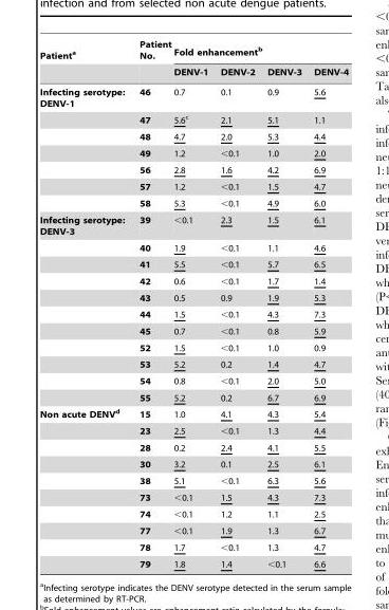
<table><thead><tr><td rowspan="2">Patient<sup>a</sup></td><td rowspan="2">Patient No.</td><td colspan="4">Fold enhancement<sup>b</sup></td></tr><tr><td>DENV-1</td><td>DENV-2</td><td>DENV-3</td><td>DENV-4</td></tr></thead><tbody><tr><td rowspan="7">Infecting serotype: DENV-1</td><td>46</td><td>0.7</td><td>0.1</td><td>0.9</td><td>5.6</td></tr><tr><td>47</td><td>5.6c</td><td>2.1</td><td>5.1</td><td>1.1</td></tr><tr><td>48</td><td>4.7</td><td>2.0</td><td>5.3</td><td>4.4</td></tr><tr><td>49</td><td>1.2</td><td>&lt;0.1</td><td>1.0</td><td>2.0</td></tr><tr><td>56</td><td>2.8</td><td>1.6</td><td>4.2</td><td>6.9</td></tr><tr><td>57</td><td>1.2</td><td>&lt;0.1</td><td>1.5</td><td>4.7</td></tr><tr><td>58</td><td>5.3</td><td>&lt;0.1</td><td>4.9</td><td>6.0</td></tr><tr><td rowspan="11">Infecting serotype: DENV-3</td><td>39</td><td>&lt;0.1</td><td>2.3</td><td>1.5</td><td>6.1</td></tr><tr><td>40</td><td>1.9</td><td>&lt;0.1</td><td>1.1</td><td>4.6</td></tr><tr><td>41</td><td>5.5</td><td>&lt;0.1</td><td>5.7</td><td>6.5</td></tr><tr><td>42</td><td>0.6</td><td>&lt;0.1</td><td>1.7</td><td>1.4</td></tr><tr><td>43</td><td>0.5</td><td>0.9</td><td>1.9</td><td>5.3</td></tr><tr><td>44</td><td>1.5</td><td>&lt;0.1</td><td>4.3</td><td>7.3</td></tr><tr><td>45</td><td>0.7</td><td>&lt;0.1</td><td>0.8</td><td>5.9</td></tr><tr><td>52</td><td>1.5</td><td>&lt;0.1</td><td>1.0</td><td>0.9</td></tr><tr><td>53</td><td>5.2</td><td>0.2</td><td>1.4</td><td>4.7</td></tr><tr><td>54</td><td>0.8</td><td>&lt;0.1</td><td>2.0</td><td>5.0</td></tr><tr><td>55</td><td>5.2</td><td>0.2</td><td>6.7</td><td>6.9</td></tr><tr><td rowspan="10">Non acute DENVd</td><td>15</td><td>1.0</td><td>4.1</td><td>4.3</td><td>5.4</td></tr><tr><td>23</td><td>2.5</td><td>&lt;0.1</td><td>1.3</td><td>4.4</td></tr><tr><td>28</td><td>0.2</td><td>2.4</td><td>4.1</td><td>5.5</td></tr><tr><td>30</td><td>3.2</td><td>0.1</td><td>2.5</td><td>6.1</td></tr><tr><td>38</td><td>5.1</td><td>&lt;0.1</td><td>6.3</td><td>5.6</td></tr><tr><td>73</td><td>&lt;0.1</td><td>1.5</td><td>4.3</td><td>7.3</td></tr><tr><td>74</td><td>&lt;0.1</td><td>1.2</td><td>1.1</td><td>2.5</td></tr><tr><td>77</td><td>&lt;0.1</td><td>1.9</td><td>1.3</td><td>6.7</td></tr><tr><td>78</td><td>1.7</td><td>&lt;0.1</td><td>1.3</td><td>4.7</td></tr><tr><td>79</td><td>1.8</td><td>1.4</td><td>&lt;0.1</td><td>6.6</td></tr></tbody></table>